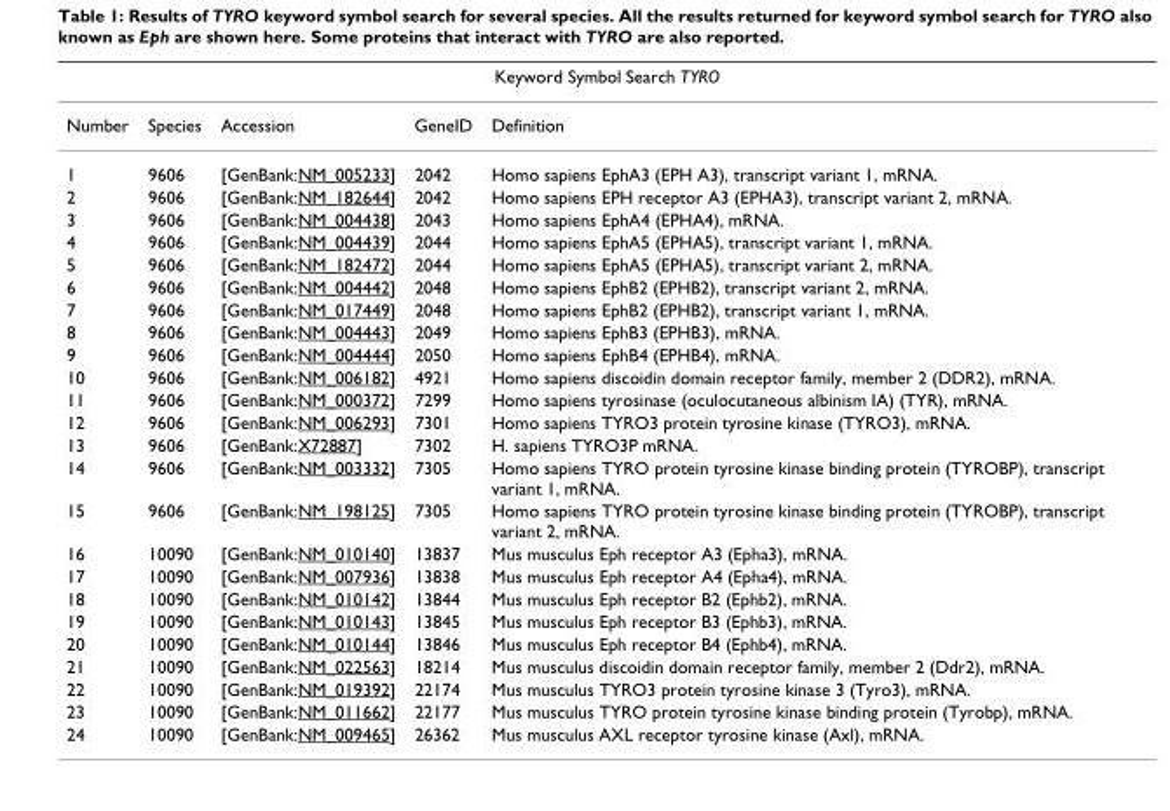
<table><thead><tr><td colspan="5">Keyword Symbol Search TYRO</td></tr><tr><td>Number</td><td>Species</td><td>Accession</td><td>GeneID</td><td>Definition</td></tr></thead><tbody><tr><td>1</td><td>9606</td><td>[GenBank:NM_005233]</td><td>2042</td><td>Homo sapiens EphA3 (EPH A3), transcript variant 1, mRNA.</td></tr><tr><td>2</td><td>9606</td><td>[GenBank:NM_182644]</td><td>2042</td><td>Homo sapiens EPH receptor A3 (EPHA3), transcript variant 2, mRNA.</td></tr><tr><td>3</td><td>9606</td><td>[GenBank:NM_004438]</td><td>2043</td><td>Homo sapiens EphA4 (EPHA4), mRNA.</td></tr><tr><td>4</td><td>9606</td><td>[GenBank:NM_004439]</td><td>2044</td><td>Homo sapiens EphA5 (EPHA5), transcript variant 1, mRNA.</td></tr><tr><td>5</td><td>9606</td><td>[GenBank:NM_182472]</td><td>2044</td><td>Homo sapiens EphA5 (EPHA5), transcript variant 2, mRNA.</td></tr><tr><td>6</td><td>9606</td><td>[GenBank:NM_004442]</td><td>2048</td><td>Homo sapiens EphB2 (EPHB2), transcript variant 2, mRNA.</td></tr><tr><td>7</td><td>9606</td><td>[GenBank:NM_017449]</td><td>2048</td><td>Homo sapiens EphB2 (EPHB2), transcript variant 1, mRNA.</td></tr><tr><td>8</td><td>9606</td><td>[GenBank:NM_004443]</td><td>2049</td><td>Homo sapiens EphB3 (EPHB3), mRNA.</td></tr><tr><td>9</td><td>9606</td><td>[GenBank:NM_004444]</td><td>2050</td><td>Homo sapiens EphB4 (EPHB4), mRNA.</td></tr><tr><td>10</td><td>9606</td><td>[GenBank:NM_006182]</td><td>4921</td><td>Homo sapiens discoidin domain receptor family, member 2 (DDR2), mRNA.</td></tr><tr><td>11</td><td>9606</td><td>[GenBank:NM_000372]</td><td>7299</td><td>Homo sapiens tyrosinase (oculocutaneous albinism IA) (TYR), mRNA.</td></tr><tr><td>12</td><td>9606</td><td>[GenBank:NM_006293]</td><td>7301</td><td>Homo sapiens TYRO3 protein tyrosine kinase (TYRO3), mRNA.</td></tr><tr><td>13</td><td>9606</td><td>[GenBank:X72887]</td><td>7302</td><td>H. sapiens TYRO3P mRNA.</td></tr><tr><td>14</td><td>9606</td><td>[GenBank:NM_003332]</td><td>7305</td><td>Homo sapiens TYRO protein tyrosine kinase binding protein (TYROBP), transcript variant 1, mRNA.</td></tr><tr><td>15</td><td>9606</td><td>[GenBank:NM_198125]</td><td>7305</td><td>Homo sapiens TYRO protein tyrosine kinase binding protein (TYROBP), transcript variant 2, mRNA.</td></tr><tr><td>16</td><td>10090</td><td>[GenBank:NM_010140]</td><td>13837</td><td>Mus musculus Eph receptor A3 (Epha3), mRNA.</td></tr><tr><td>17</td><td>10090</td><td>[GenBank:NM_007936]</td><td>13838</td><td>Mus musculus Eph receptor A4 (Epha4), mRNA.</td></tr><tr><td>18</td><td>10090</td><td>[GenBank:NM_010142]</td><td>13844</td><td>Mus musculus Eph receptor B2 (Ephb2), mRNA.</td></tr><tr><td>19</td><td>10090</td><td>[GenBank:NM_010143]</td><td>13845</td><td>Mus musculus Eph receptor B3 (Ephb3), mRNA.</td></tr><tr><td>20</td><td>10090</td><td>[GenBank:NM_010144]</td><td>13846</td><td>Mus musculus Eph receptor B4 (Ephb4), mRNA.</td></tr><tr><td>21</td><td>10090</td><td>[GenBank:NM_022563]</td><td>18214</td><td>Mus musculus discoidin domain receptor family, member 2 (Ddr2), mRNA.</td></tr><tr><td>22</td><td>10090</td><td>[GenBank:NM_019392]</td><td>22174</td><td>Mus musculus TYRO3 protein tyrosine kinase 3 (Tyro3), mRNA.</td></tr><tr><td>23</td><td>10090</td><td>[GenBank:NM_011662]</td><td>22177</td><td>Mus musculus TYRO protein tyrosine kinase binding protein (Tyrobp), mRNA.</td></tr><tr><td>24</td><td>10090</td><td>[GenBank:NM_009465]</td><td>26362</td><td>Mus musculus AXL receptor tyrosine kinase (Axl), mRNA.</td></tr></tbody></table>